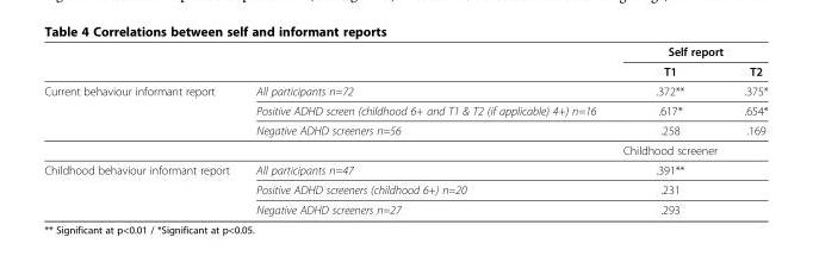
<table><thead><tr><td rowspan="2"></td><td rowspan="2"></td><td colspan="2">Self report</td></tr><tr><td>T1</td><td>T2</td></tr></thead><tbody><tr><td rowspan="4">Current behaviour informant report</td><td>All participants n=72</td><td>.372**</td><td>.375*</td></tr><tr><td>Positive ADHD screen (childhood 6+ and T1 &amp; T2 (if applicable) 4+) n=16</td><td>.617*</td><td>.654*</td></tr><tr><td>Negative ADHD screeners n=56</td><td>.258</td><td>.169</td></tr><tr><td></td><td>Childhood screener</td><td></td></tr><tr><td rowspan="3">Childhood behaviour informant report</td><td>All participants n=47</td><td>.391**</td><td></td></tr><tr><td>Positive ADHD screeners (childhood 6+) n=20</td><td>.231</td><td></td></tr><tr><td>Negative ADHD screeners n=27</td><td>.293</td><td></td></tr></tbody></table>